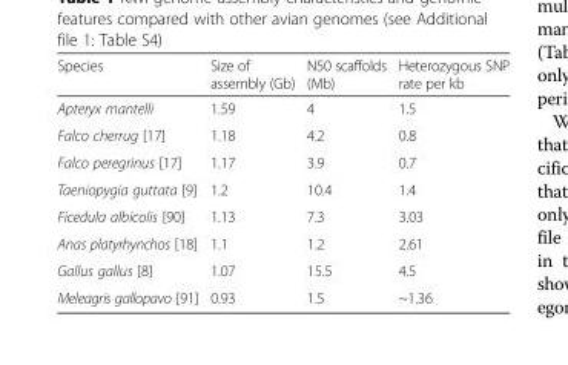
<table><thead><tr><td>Species</td><td>Size of assembly (Gb)</td><td>N50 scaffolds (Mb)</td><td>Heterozygous SNP rate per kb</td></tr></thead><tbody><tr><td>Apteryx mantelli</td><td>1.59</td><td>4</td><td>1.5</td></tr><tr><td>Falco cherrug [17]</td><td>1.18</td><td>4.2</td><td>0.8</td></tr><tr><td>Falco peregrinus [17]</td><td>1.17</td><td>3.9</td><td>0.7</td></tr><tr><td>Taeniopygia guttata [9]</td><td>1.2</td><td>10.4</td><td>1.4</td></tr><tr><td>Ficedula albicolis [90]</td><td>1.13</td><td>7.3</td><td>3.03</td></tr><tr><td>Anas platyrhynchos [18]</td><td>1.1</td><td>1.2</td><td>2.61</td></tr><tr><td>Gallus gallus [8]</td><td>1.07</td><td>15.5</td><td>4.5</td></tr><tr><td>Meleagris gallopavo [91]</td><td>0.93</td><td>1.5</td><td>~1.36</td></tr></tbody></table>